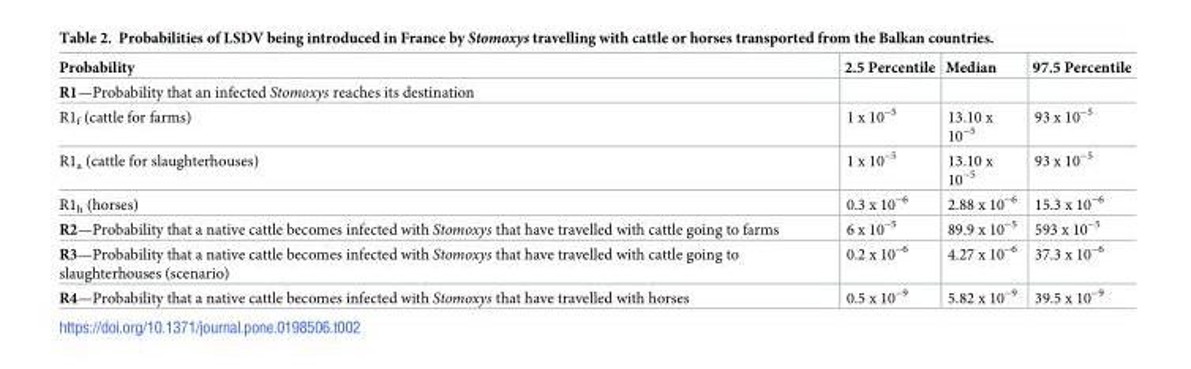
<table><thead><tr><td>Probability</td><td>2.5 Percentile</td><td>Median</td><td>97.5 Percentile</td></tr></thead><tbody><tr><td colspan="4">R1—Probability that an infected Stomoxys reaches its destination</td></tr><tr><td>R1<sub>f</sub> (cattle for farms)</td><td>1 x 10<sup>−5</sup></td><td>13.10 x 10<sup>−5</sup></td><td>93 x 10<sup>−5</sup></td></tr><tr><td>R1<sub>a</sub> (cattle for slaughterhouses)</td><td>1 x 10<sup>−5</sup></td><td>13.10 x 10<sup>−5</sup></td><td>93 x 10<sup>−5</sup></td></tr><tr><td>R1<sub>h</sub> (horses)</td><td>0.3 x 10<sup>−6</sup></td><td>2.88 x 10<sup>−6</sup></td><td>15.3 x 10<sup>−6</sup></td></tr><tr><td>R2—Probability that a native cattle becomes infected with Stomoxys that have travelled with cattle going to farms</td><td>6 x 10<sup>−5</sup></td><td>89.9 x 10<sup>−5</sup></td><td>593 x 10<sup>−5</sup></td></tr><tr><td>R3—Probability that a native cattle becomes infected with Stomoxys that have travelled with cattle going to slaughterhouses (scenario)</td><td>0.2 x 10<sup>−6</sup></td><td>4.27 x 10<sup>−6</sup></td><td>37.3 x 10<sup>−6</sup></td></tr><tr><td>R4—Probability that a native cattle becomes infected with Stomoxys that have travelled with horses</td><td>0.5 x 10<sup>−9</sup></td><td>5.82 x 10<sup>−9</sup></td><td>39.5 x 10<sup>−9</sup></td></tr></tbody></table>